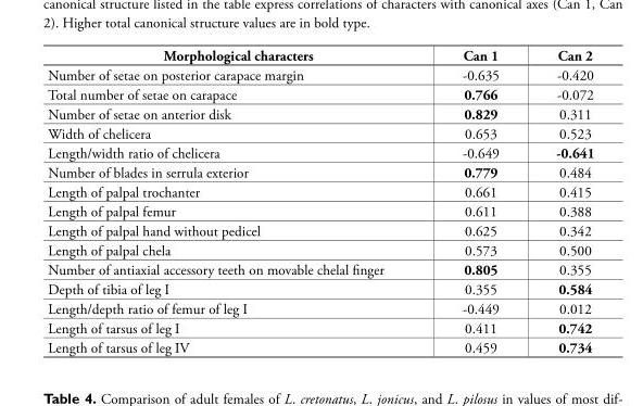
<table><thead><tr><td>Morphological characters</td><td>Can 1</td><td>Can 2</td></tr></thead><tbody><tr><td>Number of setae on posterior carapace margin</td><td>-0.635</td><td>-0.420</td></tr><tr><td>Total number of setae on carapace</td><td>0.766</td><td>-0.072</td></tr><tr><td>Number of setae on anterior disk</td><td>0.829</td><td>0.311</td></tr><tr><td>Width of chelicera</td><td>0.653</td><td>0.523</td></tr><tr><td>Length/width ratio of chelicera</td><td>-0.649</td><td>-0.641</td></tr><tr><td>Number of blades in serrula exterior</td><td>0.779</td><td>0.484</td></tr><tr><td>Length of palpal trochanter</td><td>0.661</td><td>0.415</td></tr><tr><td>Length of palpal femur</td><td>0.611</td><td>0.388</td></tr><tr><td>Length of palpal hand without pedicel</td><td>0.625</td><td>0.342</td></tr><tr><td>Length of palpal chela</td><td>0.573</td><td>0.500</td></tr><tr><td>Number of antiaxial accessory teeth on movable chelal finger</td><td>0.805</td><td>0.355</td></tr><tr><td>Depth of tibia of leg I</td><td>0.355</td><td>0.584</td></tr><tr><td>Length/depth ratio of femur of leg I</td><td>-0.449</td><td>0.012</td></tr><tr><td>Length of tarsus of leg I</td><td>0.411</td><td>0.742</td></tr><tr><td>Length of tarsus of leg IV</td><td>0.459</td><td>0.734</td></tr></tbody></table>